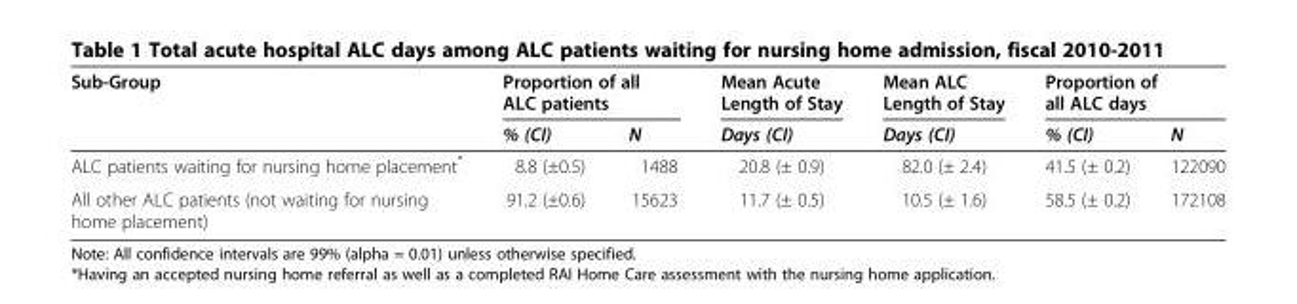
<table><thead><tr><td rowspan="2">Sub-Group</td><td colspan="2">Proportion of all ALC patients</td><td rowspan="2">Mean Acute Length of Stay Days (CI)</td><td rowspan="2">Mean ALC Length of Stay Days (CI)</td><td colspan="2">Proportion of all ALC days</td></tr><tr><td>% (CI)</td><td>N</td><td>% (CI)</td><td>N</td></tr></thead><tbody><tr><td>ALC patients waiting for nursing home placement*</td><td>8.8 (±0.5)</td><td>1488</td><td>20.8 (± 0.9)</td><td>82.0 (± 2.4)</td><td>41.5 (± 0.2)</td><td>122090</td></tr><tr><td>All other ALC patients (not waiting for nursing home placement)</td><td>91.2 (±0.6)</td><td>15623</td><td>11.7 (± 0.5)</td><td>10.5 (± 1.6)</td><td>58.5 (± 0.2)</td><td>172108</td></tr></tbody></table>